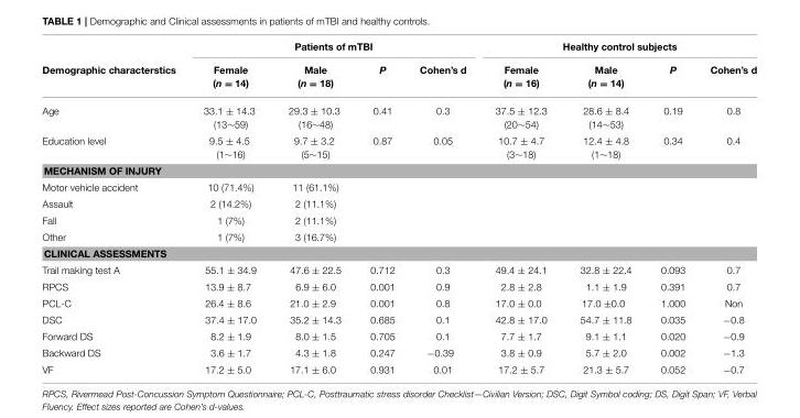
<table><thead><tr><td rowspan="2">Demographic characterstics</td><td colspan="4">Patients of mTBI</td><td colspan="4">Healthy control subjects</td></tr><tr><td>Female (n = 14)</td><td>Male (n = 18)</td><td>P</td><td>Cohen’s d</td><td>Female (n = 16)</td><td>Male (n = 14)</td><td>P</td><td>Cohen’s d</td></tr></thead><tbody><tr><td>Age</td><td>33.1 ± 14.3 (13∼59)</td><td>29.3 ± 10.3 (16∼48)</td><td>0.41</td><td>0.3</td><td>37.5 ± 12.3 (20∼54)</td><td>28.6 ± 8.4 (14∼53)</td><td>0.19</td><td>0.8</td></tr><tr><td>Education level</td><td>9.5 ± 4.5 (1∼16)</td><td>9.7 ± 3.2 (5∼15)</td><td>0.87</td><td>0.05</td><td>10.7 ± 4.7 (3∼18)</td><td>12.4 ± 4.8 (1∼18)</td><td>0.34</td><td>0.4</td></tr><tr><td colspan="9">MECHANISM OF INJURY</td></tr><tr><td>Motor vehicle accident</td><td>10 (71.4%)</td><td>11 (61.1%)</td><td></td><td></td><td></td><td></td><td></td><td></td></tr><tr><td>Assault</td><td>2 (14.2%)</td><td>2 (11.1%)</td><td></td><td></td><td></td><td></td><td></td><td></td></tr><tr><td>Fall</td><td>1 (7%)</td><td>2 (11.1%)</td><td></td><td></td><td></td><td></td><td></td><td></td></tr><tr><td>Other</td><td>1 (7%)</td><td>3 (16.7%)</td><td></td><td></td><td></td><td></td><td></td><td></td></tr><tr><td colspan="9">CLINICAL ASSESSMENTS</td></tr><tr><td>Trail making test A</td><td>55.1 ± 34.9</td><td>47.6 ± 22.5</td><td>0.712</td><td>0.3</td><td>49.4 ± 24.1</td><td>32.8 ± 22.4</td><td>0.093</td><td>0.7</td></tr><tr><td>RPCS</td><td>13.9 ± 8.7</td><td>6.9 ± 6.0</td><td>0.001</td><td>0.9</td><td>2.8 ± 2.8</td><td>1.1 ± 1.9</td><td>0.391</td><td>0.7</td></tr><tr><td>PCL-C</td><td>26.4 ± 8.6</td><td>21.0 ± 2.9</td><td>0.001</td><td>0.8</td><td>17.0 ± 0.0</td><td>17.0 ±0.0</td><td>1.000</td><td>Non</td></tr><tr><td>DSC</td><td>37.4 ± 17.0</td><td>35.2 ± 14.3</td><td>0.685</td><td>0.1</td><td>42.8 ± 17.0</td><td>54.7 ± 11.8</td><td>0.035</td><td>−0.8</td></tr><tr><td>Forward DS</td><td>8.2 ± 1.9</td><td>8.0 ± 1.5</td><td>0.705</td><td>0.1</td><td>7.7 ± 1.7</td><td>9.1 ± 1.1</td><td>0.020</td><td>−0.9</td></tr><tr><td>Backward DS</td><td>3.6 ± 1.7</td><td>4.3 ± 1.8</td><td>0.247</td><td>−0.39</td><td>3.8 ± 0.9</td><td>5.7 ± 2.0</td><td>0.002</td><td>−1.3</td></tr><tr><td>VF</td><td>17.2 ± 5.0</td><td>17.1 ± 6.0</td><td>0.931</td><td>0.01</td><td>17.2 ± 5.7</td><td>21.3 ± 5.7</td><td>0.052</td><td>−0.7</td></tr></tbody></table>